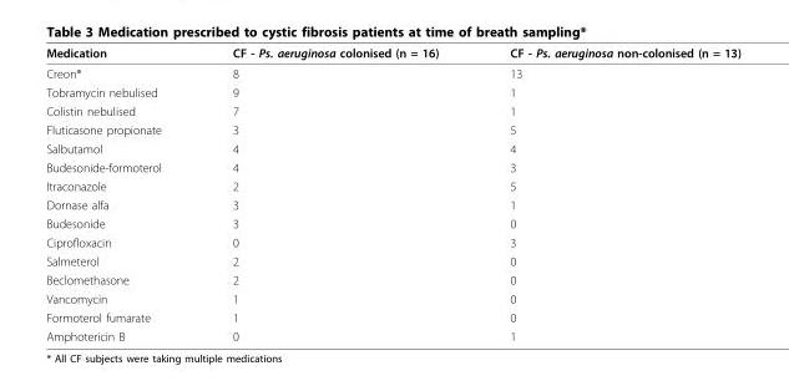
<table><thead><tr><td>Medication</td><td>CF - Ps. aeruginosa colonised (n = 16)</td><td>CF - Ps. aeruginosa non-colonised (n = 13)</td></tr></thead><tbody><tr><td>Creon<sup>®</sup></td><td>8</td><td>13</td></tr><tr><td>Tobramycin nebulised</td><td>9</td><td>1</td></tr><tr><td>Colistin nebulised</td><td>7</td><td>1</td></tr><tr><td>Fluticasone propionate</td><td>3</td><td>5</td></tr><tr><td>Salbutamol</td><td>4</td><td>4</td></tr><tr><td>Budesonide-formoterol</td><td>4</td><td>3</td></tr><tr><td>Itraconazole</td><td>2</td><td>5</td></tr><tr><td>Dornase alfa</td><td>3</td><td>1</td></tr><tr><td>Budesonide</td><td>3</td><td>0</td></tr><tr><td>Ciprofloxacin</td><td>0</td><td>3</td></tr><tr><td>Salmeterol</td><td>2</td><td>0</td></tr><tr><td>Beclomethasone</td><td>2</td><td>0</td></tr><tr><td>Vancomycin</td><td>1</td><td>0</td></tr><tr><td>Formoterol fumarate</td><td>1</td><td>0</td></tr><tr><td>Amphotericin B</td><td>0</td><td>1</td></tr></tbody></table>